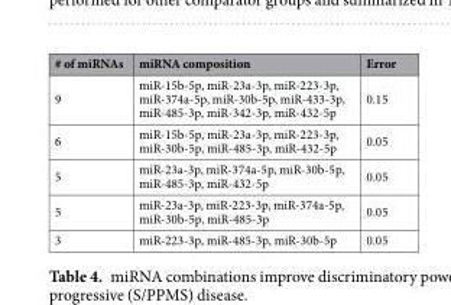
<table><thead><tr><td># of miRNAs</td><td>miRNA composition</td><td>Error</td></tr></thead><tbody><tr><td>9</td><td>miR-15b-5p, miR-23a-3p, miR-223-3p, miR-374a-5p, miR-30b-5p, miR-433-3p, miR-485-3p, miR-342-3p, miR-432-5p</td><td>0.15</td></tr><tr><td>6</td><td>miR-15b-5p, miR-23a-3p, miR-223-3p, miR-30b-5p, miR-485-3p, miR-432-5p</td><td>0.05</td></tr><tr><td>5</td><td>miR-23a-3p, miR-374a-5p, miR-30b-5p, miR-485-3p, miR-432-5p</td><td>0.05</td></tr><tr><td>5</td><td>miR-23a-3p, miR-223-3p, miR-374a-5p, miR-30b-5p, miR-485-3p</td><td>0.05</td></tr><tr><td>3</td><td>miR-223-3p, miR-485-3p, miR-30b-5p</td><td>0.05</td></tr></tbody></table>